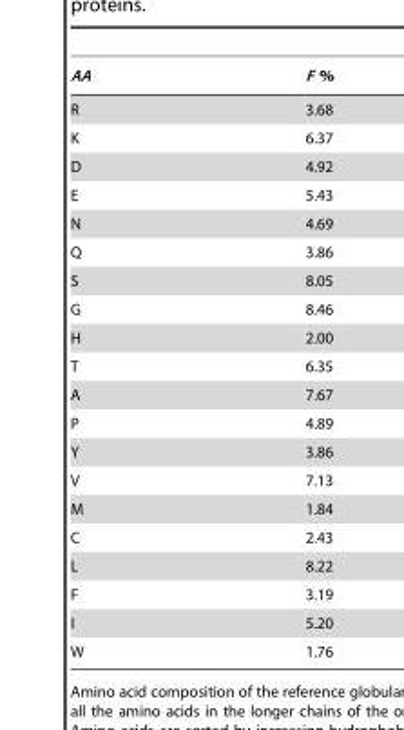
<table><thead><tr><td>AA</td><td>F %</td></tr></thead><tbody><tr><td>R</td><td>3.68</td></tr><tr><td>K</td><td>6.37</td></tr><tr><td>D</td><td>4.92</td></tr><tr><td>E</td><td>5.43</td></tr><tr><td>N</td><td>4.69</td></tr><tr><td>Q</td><td>3.86</td></tr><tr><td>S</td><td>8.05</td></tr><tr><td>G</td><td>8.46</td></tr><tr><td>H</td><td>2.00</td></tr><tr><td>T</td><td>6.35</td></tr><tr><td>A</td><td>7.67</td></tr><tr><td>P</td><td>4.89</td></tr><tr><td>Y</td><td>3.86</td></tr><tr><td>V</td><td>7.13</td></tr><tr><td>M</td><td>1.84</td></tr><tr><td>C</td><td>2.43</td></tr><tr><td>L</td><td>8.22</td></tr><tr><td>F</td><td>3.19</td></tr><tr><td>I</td><td>5.20</td></tr><tr><td>W</td><td>1.76</td></tr></tbody></table>